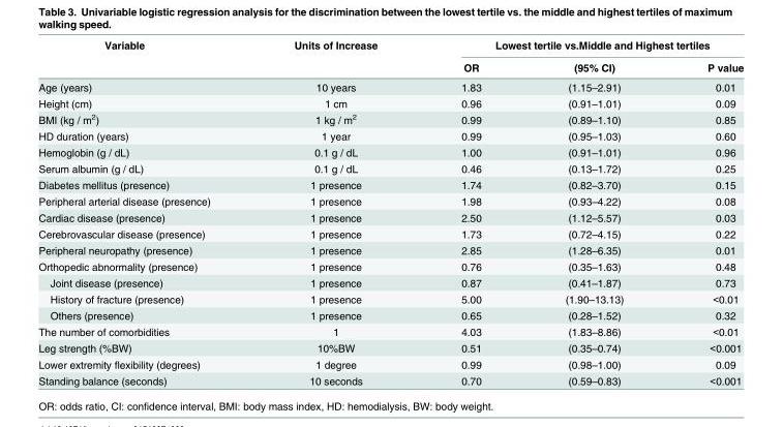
<table><thead><tr><td rowspan="2">Variable</td><td rowspan="2">Units of Increase</td><td colspan="3">Lowest tertile vs.Middle and Highest tertiles</td></tr><tr><td>OR</td><td>(95% CI)</td><td>P value</td></tr></thead><tbody><tr><td>Age (years)</td><td>10 years</td><td>1.83</td><td>(1.15–2.91)</td><td>0.01</td></tr><tr><td>Height (cm)</td><td>1 cm</td><td>0.96</td><td>(0.91–1.01)</td><td>0.09</td></tr><tr><td>BMI (kg / m<sup>2</sup>)</td><td>1 kg / m<sup>2</sup></td><td>0.99</td><td>(0.89–1.10)</td><td>0.85</td></tr><tr><td>HD duration (years)</td><td>1 year</td><td>0.99</td><td>(0.95–1.03)</td><td>0.60</td></tr><tr><td>Hemoglobin (g / dL)</td><td>0.1 g / dL</td><td>1.00</td><td>(0.91–1.01)</td><td>0.96</td></tr><tr><td>Serum albumin (g / dL)</td><td>0.1 g / dL</td><td>0.46</td><td>(0.13–1.72)</td><td>0.25</td></tr><tr><td>Diabetes mellitus (presence)</td><td>1 presence</td><td>1.74</td><td>(0.82–3.70)</td><td>0.15</td></tr><tr><td>Peripheral arterial disease (presence)</td><td>1 presence</td><td>1.98</td><td>(0.93–4.22)</td><td>0.08</td></tr><tr><td>Cardiac disease (presence)</td><td>1 presence</td><td>2.50</td><td>(1.12–5.57)</td><td>0.03</td></tr><tr><td>Cerebrovascular disease (presence)</td><td>1 presence</td><td>1.73</td><td>(0.72–4.15)</td><td>0.22</td></tr><tr><td>Peripheral neuropathy (presence)</td><td>1 presence</td><td>2.85</td><td>(1.28–6.35)</td><td>0.01</td></tr><tr><td>Orthopedic abnormality (presence)</td><td>1 presence</td><td>0.76</td><td>(0.35–1.63)</td><td>0.48</td></tr><tr><td>Joint disease (presence)</td><td>1 presence</td><td>0.87</td><td>(0.41–1.87)</td><td>0.73</td></tr><tr><td>History of fracture (presence)</td><td>1 presence</td><td>5.00</td><td>(1.90–13.13)</td><td>&lt;0.01</td></tr><tr><td>Others (presence)</td><td>1 presence</td><td>0.65</td><td>(0.28–1.52)</td><td>0.32</td></tr><tr><td>The number of comorbidities</td><td>1</td><td>4.03</td><td>(1.83–8.86)</td><td>&lt;0.01</td></tr><tr><td>Leg strength (%BW)</td><td>10%BW</td><td>0.51</td><td>(0.35–0.74)</td><td>&lt;0.001</td></tr><tr><td>Lower extremity flexibility (degrees)</td><td>1 degree</td><td>0.99</td><td>(0.98–1.00)</td><td>0.09</td></tr><tr><td>Standing balance (seconds)</td><td>10 seconds</td><td>0.70</td><td>(0.59–0.83)</td><td>&lt;0.001</td></tr></tbody></table>